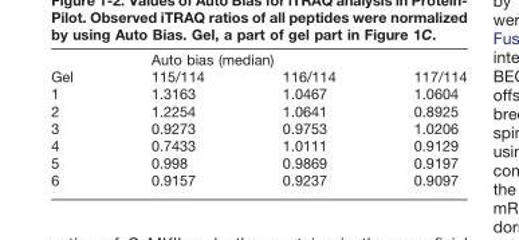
<table><thead><tr><td rowspan="2">Gel</td><td colspan="3">Auto bias (median)</td></tr><tr><td>115/114</td><td>116/114</td><td>117/114</td></tr></thead><tbody><tr><td>1</td><td>1.3163</td><td>1.0467</td><td>1.0604</td></tr><tr><td>2</td><td>1.2254</td><td>1.0641</td><td>0.8925</td></tr><tr><td>3</td><td>0.9273</td><td>0.9753</td><td>1.0206</td></tr><tr><td>4</td><td>0.7433</td><td>1.0111</td><td>0.9129</td></tr><tr><td>5</td><td>0.998</td><td>0.9869</td><td>0.9197</td></tr><tr><td>6</td><td>0.9157</td><td>0.9237</td><td>0.9097</td></tr></tbody></table>